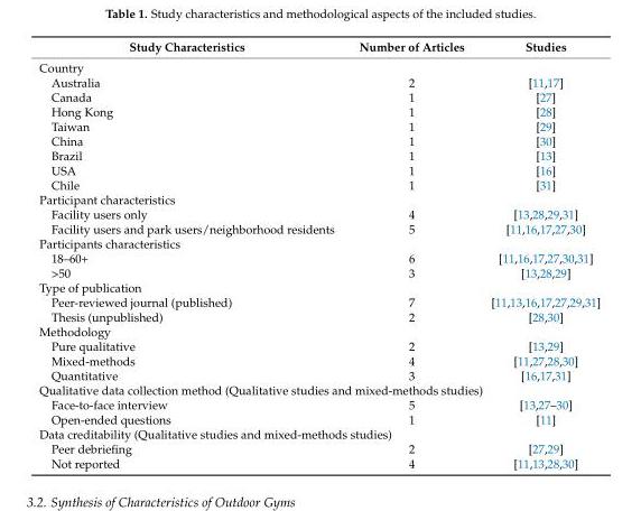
<table><thead><tr><td>Study Characteristics</td><td>Number of Articles</td><td>Studies</td></tr></thead><tbody><tr><td colspan="3">Country</td></tr><tr><td>Australia</td><td>2</td><td>[11,17]</td></tr><tr><td>Canada</td><td>1</td><td>[27]</td></tr><tr><td>Hong Kong</td><td>1</td><td>[28]</td></tr><tr><td>Taiwan</td><td>1</td><td>[29]</td></tr><tr><td>China</td><td>1</td><td>[30]</td></tr><tr><td>Brazil</td><td>1</td><td>[13]</td></tr><tr><td>USA</td><td>1</td><td>[16]</td></tr><tr><td>Chile</td><td>1</td><td>[31]</td></tr><tr><td colspan="3">Participant characteristics</td></tr><tr><td>Facility users only</td><td>4</td><td>[13,28,29,31]</td></tr><tr><td>Facility users and park users/neighborhood residents</td><td>5</td><td>[11,16,17,27,30]</td></tr><tr><td colspan="3">Participants characteristics</td></tr><tr><td>18–60+</td><td>6</td><td>[11,16,17,27,30,31]</td></tr><tr><td>&gt;50</td><td>3</td><td>[13,28,29]</td></tr><tr><td colspan="3">Type of publication</td></tr><tr><td>Peer-reviewed journal (published)</td><td>7</td><td>[11,13,16,17,27,29,31]</td></tr><tr><td>Thesis (unpublished)</td><td>2</td><td>[28,30]</td></tr><tr><td colspan="3">Methodology</td></tr><tr><td>Pure qualitative</td><td>2</td><td>[13,29]</td></tr><tr><td>Mixed-methods</td><td>4</td><td>[11,27,28,30]</td></tr><tr><td>Quantitative</td><td>3</td><td>[16,17,31]</td></tr><tr><td colspan="3">Qualitative data collection method (Qualitative studies and mixed-methods studies)</td></tr><tr><td>Face-to-face interview</td><td>5</td><td>[13,27–30]</td></tr><tr><td>Open-ended questions</td><td>1</td><td>[11]</td></tr><tr><td colspan="3">Data creditability (Qualitative studies and mixed-methods studies)</td></tr><tr><td>Peer debriefing</td><td>2</td><td>[27,29]</td></tr><tr><td>Not reported</td><td>4</td><td>[11,13,28,30]</td></tr></tbody></table>